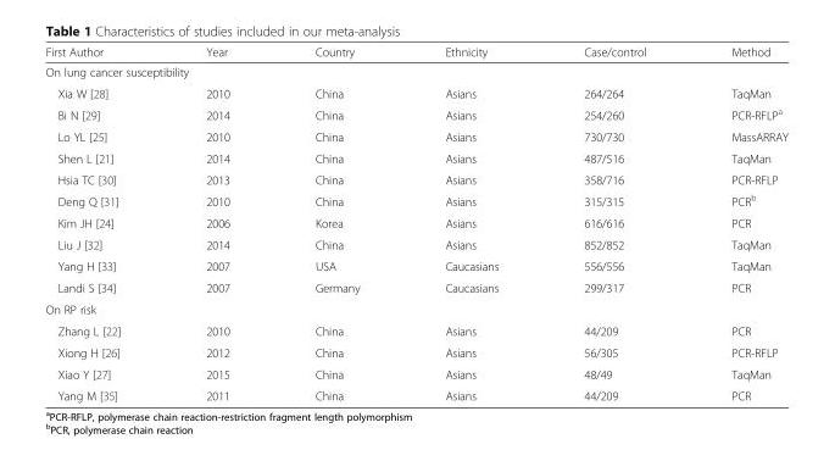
<table><thead><tr><td>First Author</td><td>Year</td><td>Country</td><td>Ethnicity</td><td>Case/control</td><td>Method</td></tr></thead><tbody><tr><td colspan="6">On lung cancer susceptibility</td></tr><tr><td>Xia W [28]</td><td>2010</td><td>China</td><td>Asians</td><td>264/264</td><td>TaqMan</td></tr><tr><td>Bi N [29]</td><td>2014</td><td>China</td><td>Asians</td><td>254/260</td><td>PCR-RFLP<sup>a</sup></td></tr><tr><td>Lo YL [25]</td><td>2010</td><td>China</td><td>Asians</td><td>730/730</td><td>MassARRAY</td></tr><tr><td>Shen L [21]</td><td>2014</td><td>China</td><td>Asians</td><td>487/516</td><td>TaqMan</td></tr><tr><td>Hsia TC [30]</td><td>2013</td><td>China</td><td>Asians</td><td>358/716</td><td>PCR-RFLP</td></tr><tr><td>Deng Q [31]</td><td>2010</td><td>China</td><td>Asians</td><td>315/315</td><td>PCR<sup>b</sup></td></tr><tr><td>Kim JH [24]</td><td>2006</td><td>Korea</td><td>Asians</td><td>616/616</td><td>PCR</td></tr><tr><td>Liu J [32]</td><td>2014</td><td>China</td><td>Asians</td><td>852/852</td><td>TaqMan</td></tr><tr><td>Yang H [33]</td><td>2007</td><td>USA</td><td>Caucasians</td><td>556/556</td><td>TaqMan</td></tr><tr><td>Landi S [34]</td><td>2007</td><td>Germany</td><td>Caucasians</td><td>299/317</td><td>PCR</td></tr><tr><td colspan="6">On RP risk</td></tr><tr><td>Zhang L [22]</td><td>2010</td><td>China</td><td>Asians</td><td>44/209</td><td>PCR</td></tr><tr><td>Xiong H [26]</td><td>2012</td><td>China</td><td>Asians</td><td>56/305</td><td>PCR-RFLP</td></tr><tr><td>Xiao Y [27]</td><td>2015</td><td>China</td><td>Asians</td><td>48/49</td><td>TaqMan</td></tr><tr><td>Yang M [35]</td><td>2011</td><td>China</td><td>Asians</td><td>44/209</td><td>PCR</td></tr></tbody></table>